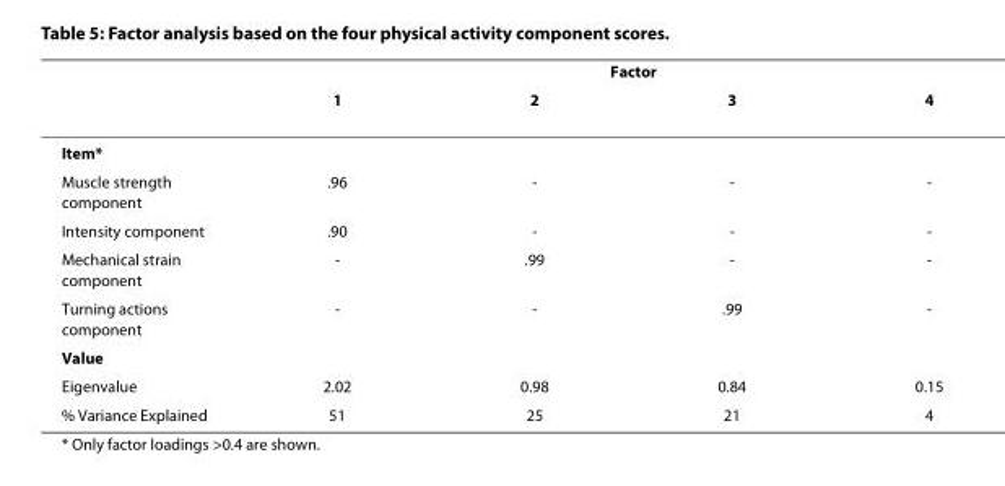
<table><thead><tr><td rowspan="2"></td><td colspan="4">Factor</td></tr><tr><td>1</td><td>2</td><td>3</td><td>4</td></tr></thead><tbody><tr><td colspan="5">Item*</td></tr><tr><td>Muscle strength component</td><td>.96</td><td>-</td><td>-</td><td>-</td></tr><tr><td>Intensity component</td><td>.90</td><td>-</td><td>-</td><td>-</td></tr><tr><td>Mechanical strain component</td><td>-</td><td>.99</td><td>-</td><td>-</td></tr><tr><td>Turning actions component</td><td>-</td><td>-</td><td>.99</td><td>-</td></tr><tr><td colspan="5">Value</td></tr><tr><td>Eigenvalue</td><td>2.02</td><td>0.98</td><td>0.84</td><td>0.15</td></tr><tr><td>% Variance Explained</td><td>51</td><td>25</td><td>21</td><td>4</td></tr></tbody></table>